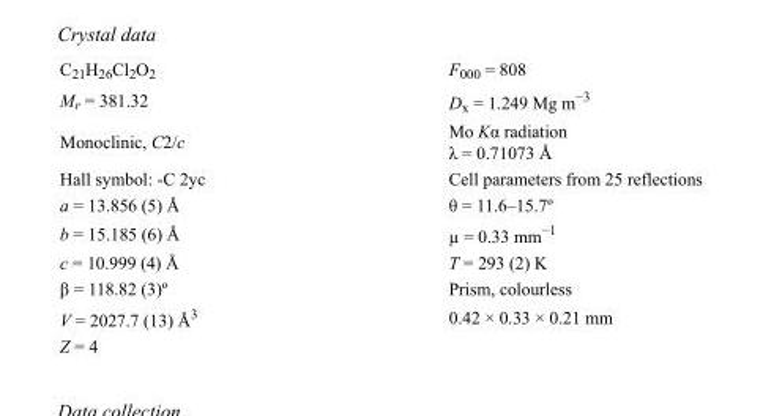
<table><tbody><tr><td>C<sub>21</sub>H<sub>26</sub>Cl<sub>2</sub>O<sub>2</sub></td><td>F<sub>000</sub> = 808</td></tr><tr><td>M<sub>r</sub> = 381.32</td><td>D<sub>x</sub> = 1.249 Mg m<sup>−3</sup></td></tr><tr><td>Monoclinic, C2/c</td><td>Mo Kα radiation λ = 0.71073 Å</td></tr><tr><td>Hall symbol: -C 2yc</td><td>Cell parameters from 25 reflections</td></tr><tr><td>a = 13.856 (5) Å</td><td>θ = 11.6–15.7º</td></tr><tr><td>b = 15.185 (6) Å</td><td>µ = 0.33 mm<sup>−1</sup></td></tr><tr><td>c = 10.999 (4) Å</td><td>T = 293 (2) K</td></tr><tr><td>β = 118.82 (3)º</td><td>Prism, colourless</td></tr><tr><td>V = 2027.7 (13) Å<sup>3</sup></td><td>0.42 × 0.33 × 0.21 mm</td></tr><tr><td>Z = 4</td><td></td></tr></tbody></table>